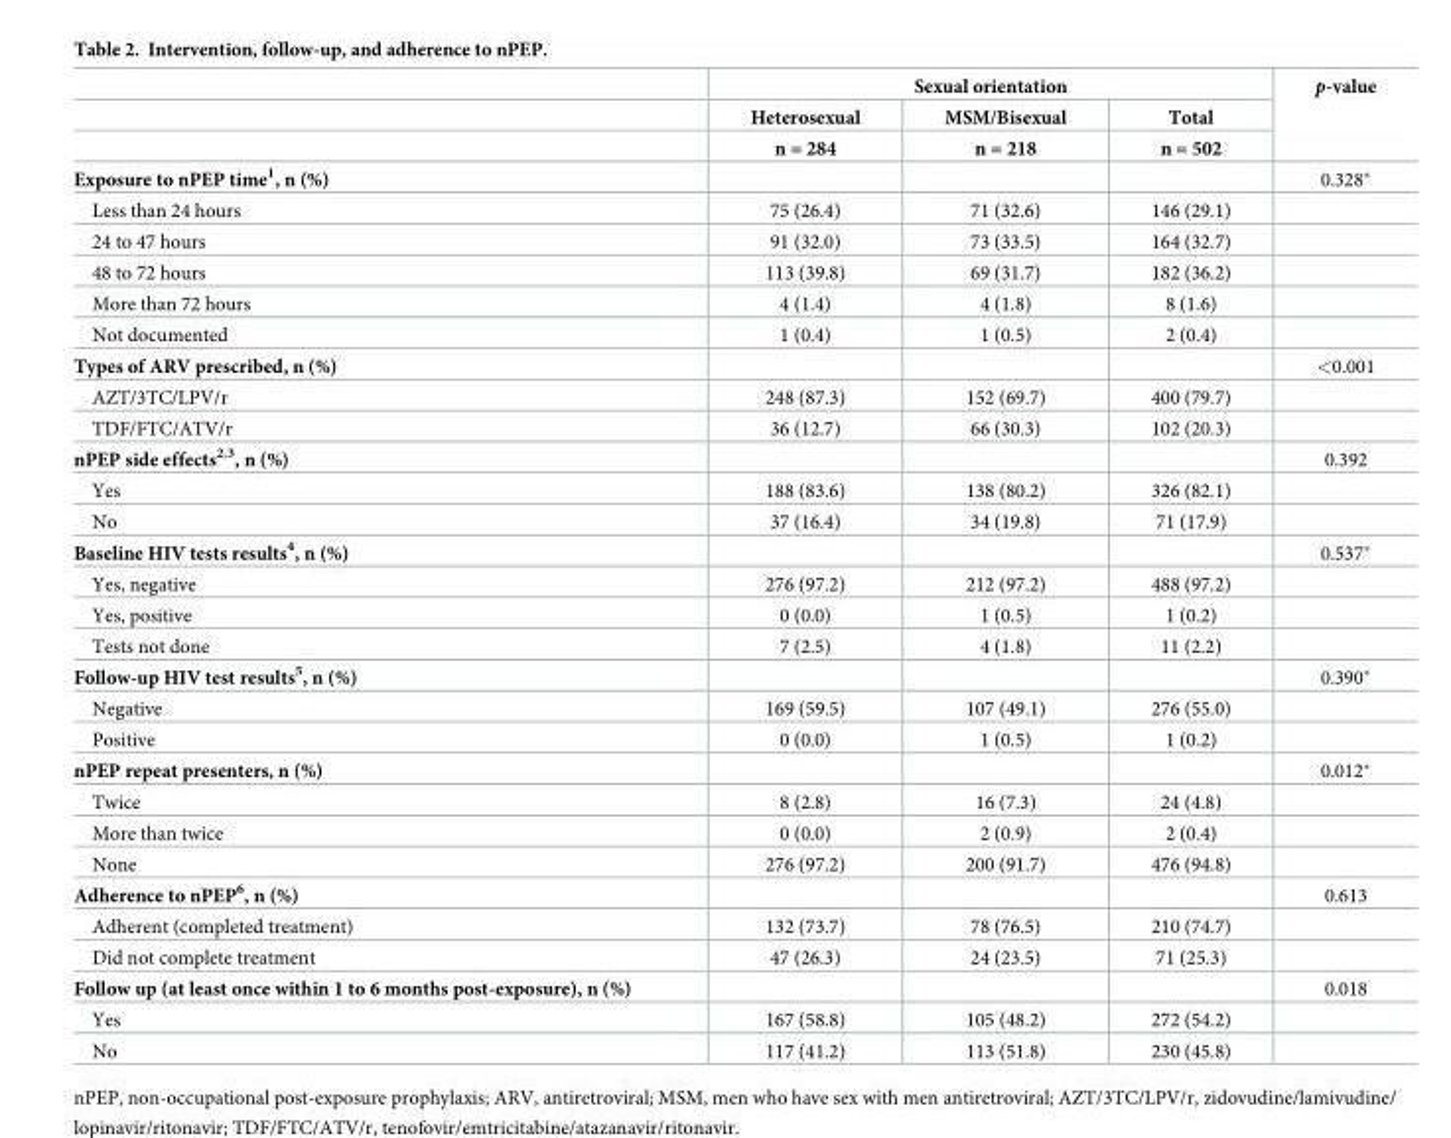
<table><thead><tr><td rowspan="3"></td><td colspan="3">Sexual orientation</td><td rowspan="3">p-value</td></tr><tr><td rowspan="2">Heterosexual n = 284</td><td rowspan="2">MSM/Bisexual n = 218</td><td rowspan="2">Total n = 502</td></tr><tr></tr></thead><tbody><tr><td>Exposure to nPEP time<sup>1</sup>, n (%)</td><td></td><td></td><td></td><td>0.328*</td></tr><tr><td>Less than 24 hours</td><td>75 (26.4)</td><td>71 (32.6)</td><td>146 (29.1)</td><td></td></tr><tr><td>24 to 47 hours</td><td>91 (32.0)</td><td>73 (33.5)</td><td>164 (32.7)</td><td></td></tr><tr><td>48 to 72 hours</td><td>113 (39.8)</td><td>69 (31.7)</td><td>182 (36.2)</td><td></td></tr><tr><td>More than 72 hours</td><td>4 (1.4)</td><td>4 (1.8)</td><td>8 (1.6)</td><td></td></tr><tr><td>Not documented</td><td>1 (0.4)</td><td>1 (0.5)</td><td>2 (0.4)</td><td></td></tr><tr><td>Types of ARV prescribed, n (%)</td><td></td><td></td><td></td><td>&lt;0.001</td></tr><tr><td>AZT/3TC/LPV/r</td><td>248 (87.3)</td><td>152 (69.7)</td><td>400 (79.7)</td><td></td></tr><tr><td>TDF/FTC/ATV/r</td><td>36 (12.7)</td><td>66 (30.3)</td><td>102 (20.3)</td><td></td></tr><tr><td>nPEP side effects<sup>2,3</sup>, n (%)</td><td></td><td></td><td></td><td>0.392</td></tr><tr><td>Yes</td><td>188 (83.6)</td><td>138 (80.2)</td><td>326 (82.1)</td><td></td></tr><tr><td>No</td><td>37 (16.4)</td><td>34 (19.8)</td><td>71 (17.9)</td><td></td></tr><tr><td>Baseline HIV tests results<sup>4</sup>, n (%)</td><td></td><td></td><td></td><td>0.537*</td></tr><tr><td>Yes, negative</td><td>276 (97.2)</td><td>212 (97.2)</td><td>488 (97.2)</td><td></td></tr><tr><td>Yes, positive</td><td>0 (0.0)</td><td>1 (0.5)</td><td>1 (0.2)</td><td></td></tr><tr><td>Tests not done</td><td>7 (2.5)</td><td>4 (1.8)</td><td>11 (2.2)</td><td></td></tr><tr><td>Follow-up HIV test results<sup>5</sup>, n (%)</td><td></td><td></td><td></td><td>0.390*</td></tr><tr><td>Negative</td><td>169 (59.5)</td><td>107 (49.1)</td><td>276 (55.0)</td><td></td></tr><tr><td>Positive</td><td>0 (0.0)</td><td>1 (0.5)</td><td>1 (0.2)</td><td></td></tr><tr><td>nPEP repeat presenters, n (%)</td><td></td><td></td><td></td><td>0.012*</td></tr><tr><td>Twice</td><td>8 (2.8)</td><td>16 (7.3)</td><td>24 (4.8)</td><td></td></tr><tr><td>More than twice</td><td>0 (0.0)</td><td>2 (0.9)</td><td>2 (0.4)</td><td></td></tr><tr><td>None</td><td>276 (97.2)</td><td>200 (91.7)</td><td>476 (94.8)</td><td></td></tr><tr><td>Adherence to nPEP<sup>6</sup>, n (%)</td><td></td><td></td><td></td><td>0.613</td></tr><tr><td>Adherent (completed treatment)</td><td>132 (73.7)</td><td>78 (76.5)</td><td>210 (74.7)</td><td></td></tr><tr><td>Did not complete treatment</td><td>47 (26.3)</td><td>24 (23.5)</td><td>71 (25.3)</td><td></td></tr><tr><td>Follow up (at least once within 1 to 6 months post-exposure), n (%)</td><td></td><td></td><td></td><td>0.018</td></tr><tr><td>Yes</td><td>167 (58.8)</td><td>105 (48.2)</td><td>272 (54.2)</td><td></td></tr><tr><td>No</td><td>117 (41.2)</td><td>113 (51.8)</td><td>230 (45.8)</td><td></td></tr></tbody></table>